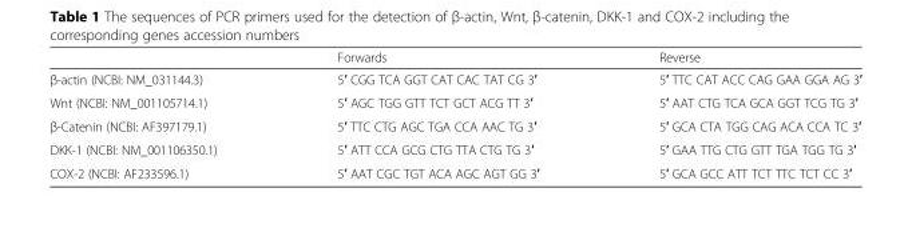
<table><thead><tr><td></td><td>Forwards</td><td>Reverse</td></tr></thead><tbody><tr><td>β-actin (NCBI: NM_031144.3)</td><td>5′ CGG TCA GGT CAT CAC TAT CG 3′</td><td>5′ TTC CAT ACC CAG GAA GGA AG 3′</td></tr><tr><td>Wnt (NCBI: NM_001105714.1)</td><td>5′ AGC TGG GTT TCT GCT ACG TT 3′</td><td>5′ AAT CTG TCA GCA GGT TCG TG 3′</td></tr><tr><td>β-Catenin (NCBI: AF397179.1)</td><td>5′ TTC CTG AGC TGA CCA AAC TG 3′</td><td>5′ GCA CTA TGG CAG ACA CCA TC 3′</td></tr><tr><td>DKK-1 (NCBI: NM_001106350.1)</td><td>5′ ATT CCA GCG CTG TTA CTG TG 3′</td><td>5′ GAA TTG CTG GTT TGA TGG TG 3′</td></tr><tr><td>COX-2 (NCBI: AF233596.1)</td><td>5′ AAT CGC TGT ACA AGC AGT GG 3′</td><td>5′ GCA GCC ATT TCT TTC TCT CC 3′</td></tr></tbody></table>